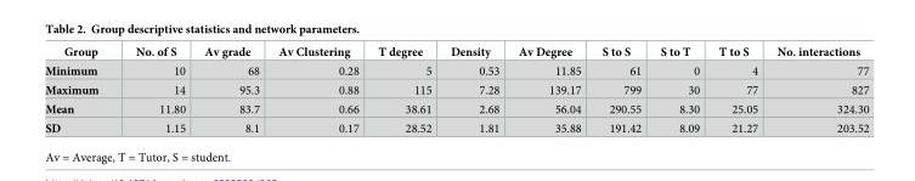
<table><thead><tr><td>Group</td><td>No. of S</td><td>Av grade</td><td>Av Clustering</td><td>T degree</td><td>Density</td><td>Av Degree</td><td>S to S</td><td>S to T</td><td>T to S</td><td>No. interactions</td></tr></thead><tbody><tr><td>Minimum</td><td>10</td><td>68</td><td>0.28</td><td>5</td><td>0.53</td><td>11.85</td><td>61</td><td>0</td><td>4</td><td>77</td></tr><tr><td>Maximum</td><td>14</td><td>95.3</td><td>0.88</td><td>115</td><td>7.28</td><td>139.17</td><td>799</td><td>30</td><td>77</td><td>827</td></tr><tr><td>Mean</td><td>11.80</td><td>83.7</td><td>0.66</td><td>38.61</td><td>2.68</td><td>56.04</td><td>290.55</td><td>8.30</td><td>25.05</td><td>324.30</td></tr><tr><td>SD</td><td>1.15</td><td>8.1</td><td>0.17</td><td>28.52</td><td>1.81</td><td>35.88</td><td>191.42</td><td>8.09</td><td>21.27</td><td>203.52</td></tr></tbody></table>